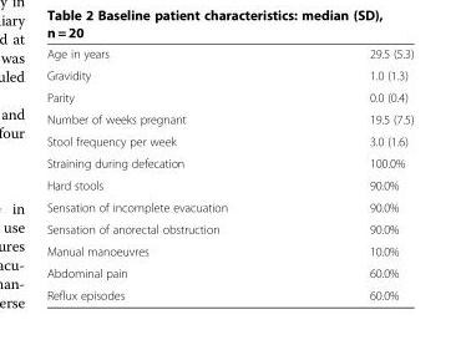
<table><tbody><tr><td>Age in years</td><td>29.5 (5.3)</td></tr><tr><td>Gravidity</td><td>1.0 (1.3)</td></tr><tr><td>Parity</td><td>0.0 (0.4)</td></tr><tr><td>Number of weeks pregnant</td><td>19.5 (7.5)</td></tr><tr><td>Stool frequency per week</td><td>3.0 (1.6)</td></tr><tr><td>Straining during defecation</td><td>100.0%</td></tr><tr><td>Hard stools</td><td>90.0%</td></tr><tr><td>Sensation of incomplete evacuation</td><td>90.0%</td></tr><tr><td>Sensation of anorectal obstruction</td><td>90.0%</td></tr><tr><td>Manual manoeuvres</td><td>10.0%</td></tr><tr><td>Abdominal pain</td><td>60.0%</td></tr><tr><td>Reflux episodes</td><td>60.0%</td></tr></tbody></table>